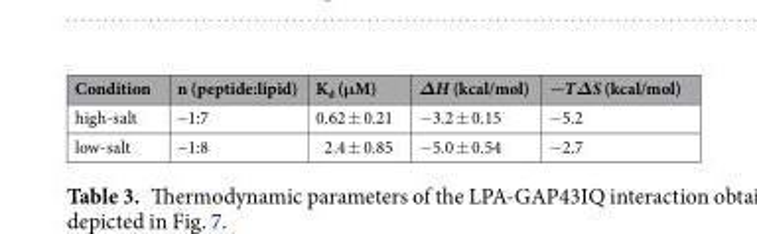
<table><thead><tr><td>Condition</td><td>n (peptide:lipid)</td><td>K<sub>d</sub> (μM)</td><td>ΔH (kcal/mol)</td><td>−TΔS (kcal/mol)</td></tr></thead><tbody><tr><td>high-salt</td><td>~1:7</td><td>0.62 ± 0.21</td><td>−3.2 ± 0.15</td><td>−5.2</td></tr><tr><td>low-salt</td><td>~1:8</td><td>2.4 ± 0.85</td><td>−5.0 ± 0.54</td><td>−2.7</td></tr></tbody></table>